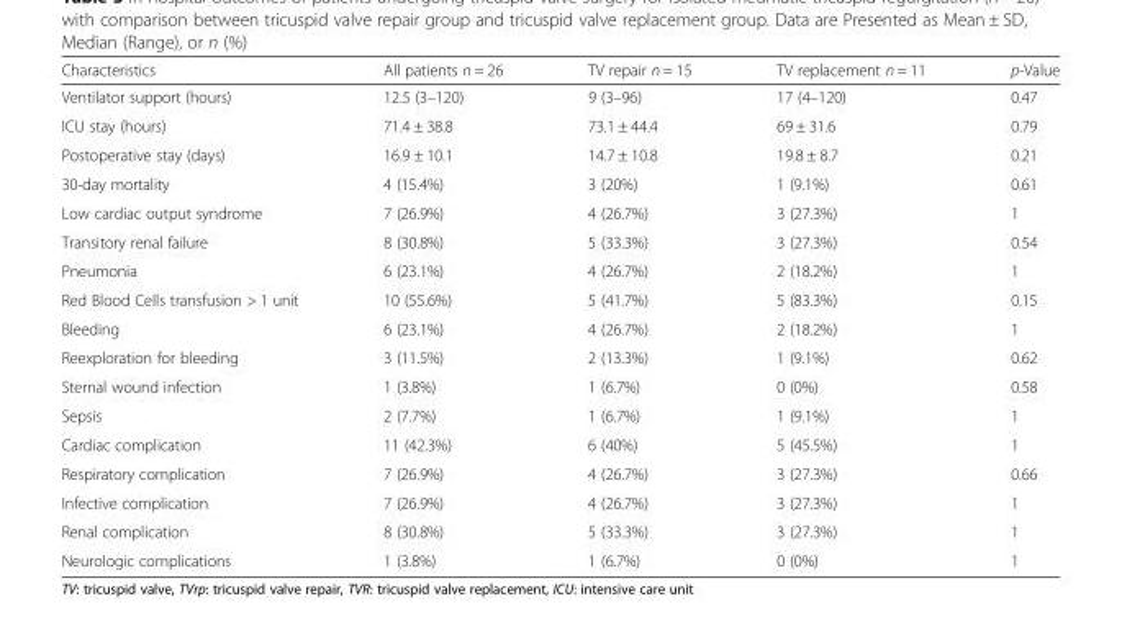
<table><thead><tr><td>Characteristics</td><td>All patients n = 26</td><td>TV repair n = 15</td><td>TV replacement n = 11</td><td>p-Value</td></tr></thead><tbody><tr><td>Ventilator support (hours)</td><td>12.5 (3–120)</td><td>9 (3–96)</td><td>17 (4–120)</td><td>0.47</td></tr><tr><td>ICU stay (hours)</td><td>71.4 ± 38.8</td><td>73.1 ± 44.4</td><td>69 ± 31.6</td><td>0.79</td></tr><tr><td>Postoperative stay (days)</td><td>16.9 ± 10.1</td><td>14.7 ± 10.8</td><td>19.8 ± 8.7</td><td>0.21</td></tr><tr><td>30-day mortality</td><td>4 (15.4%)</td><td>3 (20%)</td><td>1 (9.1%)</td><td>0.61</td></tr><tr><td>Low cardiac output syndrome</td><td>7 (26.9%)</td><td>4 (26.7%)</td><td>3 (27.3%)</td><td>1</td></tr><tr><td>Transitory renal failure</td><td>8 (30.8%)</td><td>5 (33.3%)</td><td>3 (27.3%)</td><td>0.54</td></tr><tr><td>Pneumonia</td><td>6 (23.1%)</td><td>4 (26.7%)</td><td>2 (18.2%)</td><td>1</td></tr><tr><td>Red Blood Cells transfusion &gt; 1 unit</td><td>10 (55.6%)</td><td>5 (41.7%)</td><td>5 (83.3%)</td><td>0.15</td></tr><tr><td>Bleeding</td><td>6 (23.1%)</td><td>4 (26.7%)</td><td>2 (18.2%)</td><td>1</td></tr><tr><td>Reexploration for bleeding</td><td>3 (11.5%)</td><td>2 (13.3%)</td><td>1 (9.1%)</td><td>0.62</td></tr><tr><td>Sternal wound infection</td><td>1 (3.8%)</td><td>1 (6.7%)</td><td>0 (0%)</td><td>0.58</td></tr><tr><td>Sepsis</td><td>2 (7.7%)</td><td>1 (6.7%)</td><td>1 (9.1%)</td><td>1</td></tr><tr><td>Cardiac complication</td><td>11 (42.3%)</td><td>6 (40%)</td><td>5 (45.5%)</td><td>1</td></tr><tr><td>Respiratory complication</td><td>7 (26.9%)</td><td>4 (26.7%)</td><td>3 (27.3%)</td><td>0.66</td></tr><tr><td>Infective complication</td><td>7 (26.9%)</td><td>4 (26.7%)</td><td>3 (27.3%)</td><td>1</td></tr><tr><td>Renal complication</td><td>8 (30.8%)</td><td>5 (33.3%)</td><td>3 (27.3%)</td><td>1</td></tr><tr><td>Neurologic complications</td><td>1 (3.8%)</td><td>1 (6.7%)</td><td>0 (0%)</td><td>1</td></tr></tbody></table>